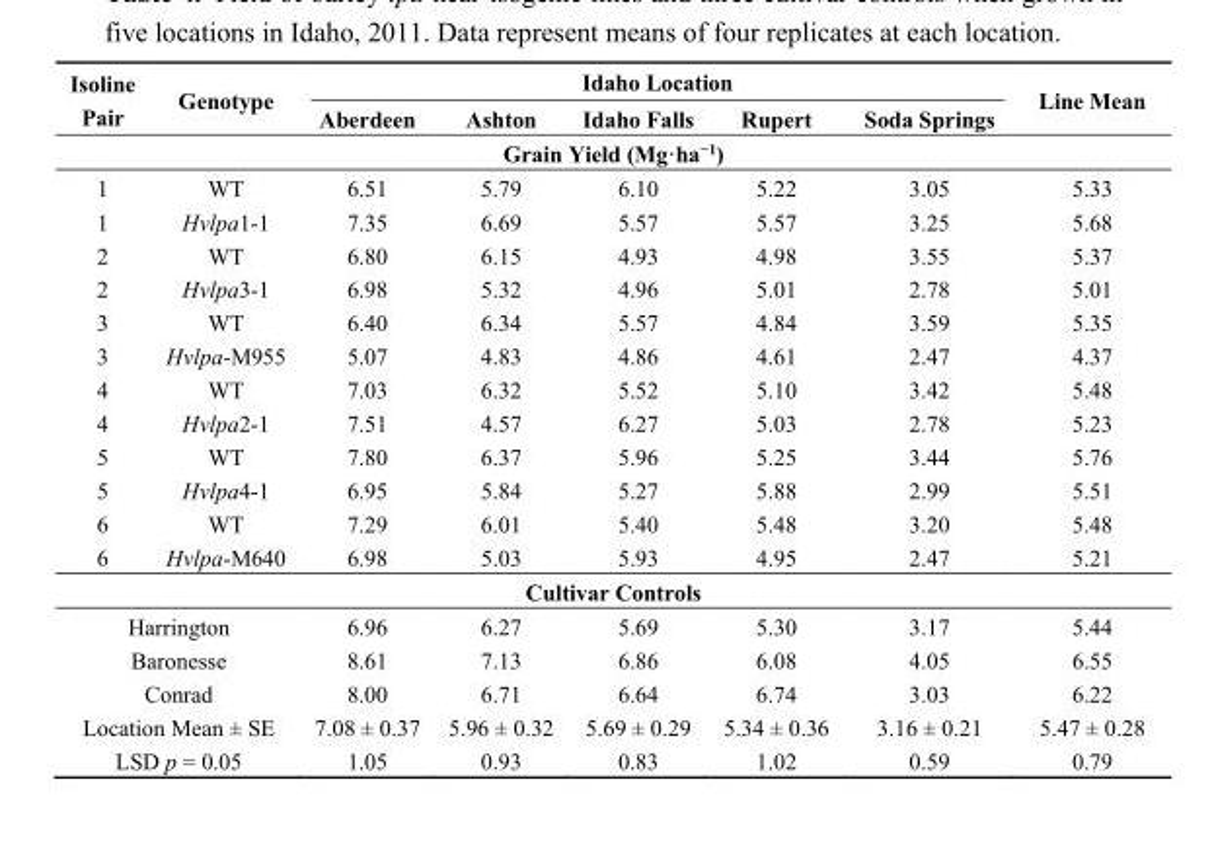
<table><thead><tr><td rowspan="2">Isoline Pair</td><td rowspan="2">Genotype</td><td colspan="5">Idaho Location</td><td rowspan="2">Line Mean</td></tr><tr><td>Aberdeen</td><td>Ashton</td><td>Idaho Falls</td><td>Rupert</td><td>Soda Springs</td></tr></thead><tbody><tr><td colspan="8">Grain Yield (Mg·ha<sup>−1</sup>)</td></tr><tr><td>1</td><td>WT</td><td>6.51</td><td>5.79</td><td>6.10</td><td>5.22</td><td>3.05</td><td>5.33</td></tr><tr><td>1</td><td>Hvlpa1-1</td><td>7.35</td><td>6.69</td><td>5.57</td><td>5.57</td><td>3.25</td><td>5.68</td></tr><tr><td>2</td><td>WT</td><td>6.80</td><td>6.15</td><td>4.93</td><td>4.98</td><td>3.55</td><td>5.37</td></tr><tr><td>2</td><td>Hvlpa3-1</td><td>6.98</td><td>5.32</td><td>4.96</td><td>5.01</td><td>2.78</td><td>5.01</td></tr><tr><td>3</td><td>WT</td><td>6.40</td><td>6.34</td><td>5.57</td><td>4.84</td><td>3.59</td><td>5.35</td></tr><tr><td>3</td><td>Hvlpa-M955</td><td>5.07</td><td>4.83</td><td>4.86</td><td>4.61</td><td>2.47</td><td>4.37</td></tr><tr><td>4</td><td>WT</td><td>7.03</td><td>6.32</td><td>5.52</td><td>5.10</td><td>3.42</td><td>5.48</td></tr><tr><td>4</td><td>Hvlpa2-1</td><td>7.51</td><td>4.57</td><td>6.27</td><td>5.03</td><td>2.78</td><td>5.23</td></tr><tr><td>5</td><td>WT</td><td>7.80</td><td>6.37</td><td>5.96</td><td>5.25</td><td>3.44</td><td>5.76</td></tr><tr><td>5</td><td>Hvlpa4-1</td><td>6.95</td><td>5.84</td><td>5.27</td><td>5.88</td><td>2.99</td><td>5.51</td></tr><tr><td>6</td><td>WT</td><td>7.29</td><td>6.01</td><td>5.40</td><td>5.48</td><td>3.20</td><td>5.48</td></tr><tr><td>6</td><td>Hvlpa-M640</td><td>6.98</td><td>5.03</td><td>5.93</td><td>4.95</td><td>2.47</td><td>5.21</td></tr><tr><td colspan="8">Cultivar Controls</td></tr><tr><td colspan="2">Harrington</td><td>6.96</td><td>6.27</td><td>5.69</td><td>5.30</td><td>3.17</td><td>5.44</td></tr><tr><td colspan="2">Baronesse</td><td>8.61</td><td>7.13</td><td>6.86</td><td>6.08</td><td>4.05</td><td>6.55</td></tr><tr><td colspan="2">Conrad</td><td>8.00</td><td>6.71</td><td>6.64</td><td>6.74</td><td>3.03</td><td>6.22</td></tr><tr><td colspan="2">Location Mean ± SE</td><td>7.08 ± 0.37</td><td>5.96 ± 0.32</td><td>5.69 ± 0.29</td><td>5.34 ± 0.36</td><td>3.16 ± 0.21</td><td>5.47 ± 0.28</td></tr><tr><td colspan="2">LSD p = 0.05</td><td>1.05</td><td>0.93</td><td>0.83</td><td>1.02</td><td>0.59</td><td>0.79</td></tr></tbody></table>